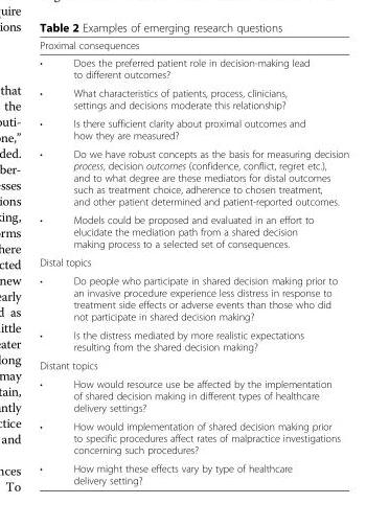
<table><thead><tr><td colspan="2">Proximal consequences</td></tr><tr><td>•</td><td>Does the preferred patient role in decision-making lead to different outcomes?</td></tr></thead><tbody><tr><td>•</td><td>What characteristics of patients, process, clinicians, settings and decisions moderate this relationship?</td></tr><tr><td>•</td><td>Is there sufficient clarity about proximal outcomes and how they are measured?</td></tr><tr><td>•</td><td>Do we have robust concepts as the basis for measuring decision process, decision outcomes (confidence, conflict, regret etc.), and to what degree are these mediators for distal outcomes such as treatment choice, adherence to chosen treatment, and other patient determined and patient-reported outcomes.</td></tr><tr><td>•</td><td>Models could be proposed and evaluated in an effort to elucidate the mediation path from a shared decision making process to a selected set of consequences.</td></tr><tr><td colspan="2">Distal topics</td></tr><tr><td>•</td><td>Do people who participate in shared decision making prior to an invasive procedure experience less distress in response to treatment side effects or adverse events than those who did not participate in shared decision making?</td></tr><tr><td>•</td><td>Is the distress mediated by more realistic expectations resulting from the shared decision making?</td></tr><tr><td colspan="2">Distant topics</td></tr><tr><td>•</td><td>How would resource use be affected by the implementation of shared decision making in different types of healthcare delivery settings?</td></tr><tr><td>•</td><td>How would implementation of shared decision making prior to specific procedures affect rates of malpractice investigations concerning such procedures?</td></tr><tr><td>•</td><td>How might these effects vary by type of healthcare delivery setting?</td></tr></tbody></table>